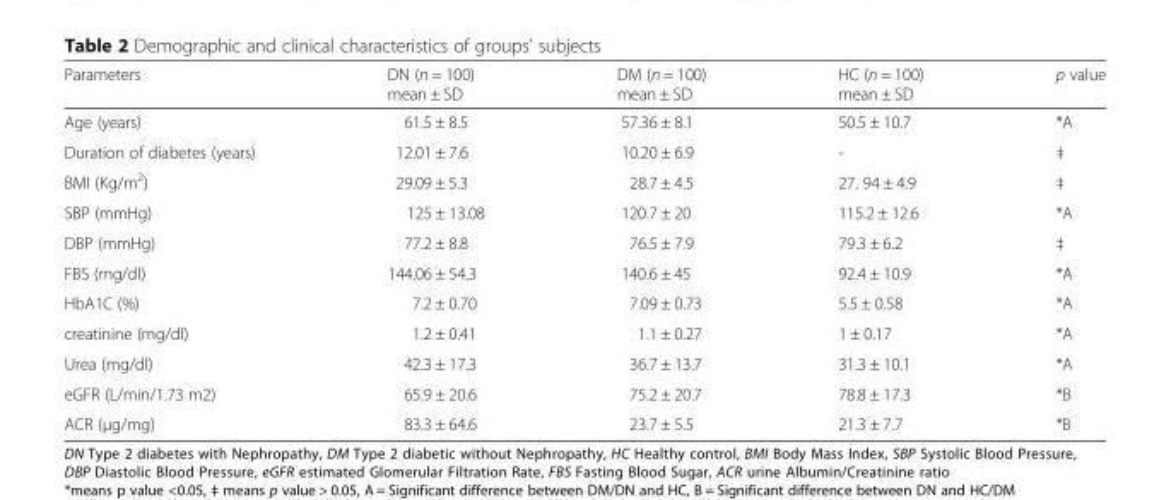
<table><thead><tr><td>Parameters</td><td>DN (n = 100) mean ± SD</td><td>DM (n = 100) mean ± SD</td><td>HC (n = 100) mean ± SD</td><td>p value</td></tr></thead><tbody><tr><td>Age (years)</td><td>61.5 ± 8.5</td><td>57.36 ± 8.1</td><td>50.5 ± 10.7</td><td>*A</td></tr><tr><td>Duration of diabetes (years)</td><td>12.01 ± 7.6</td><td>10.20 ± 6.9</td><td>-</td><td>‡</td></tr><tr><td>BMI (Kg/m<sup>2</sup>)</td><td>29.09 ± 5.3</td><td>28.7 ± 4.5</td><td>27. 94 ± 4.9</td><td>‡</td></tr><tr><td>SBP (mmHg)</td><td>125 ± 13.08</td><td>120.7 ± 20</td><td>115.2 ± 12.6</td><td>*A</td></tr><tr><td>DBP (mmHg)</td><td>77.2 ± 8.8</td><td>76.5 ± 7.9</td><td>79.3 ± 6.2</td><td>‡</td></tr><tr><td>FBS (mg/dl)</td><td>144.06 ± 54.3</td><td>140.6 ± 45</td><td>92.4 ± 10.9</td><td>*A</td></tr><tr><td>HbA1C (%)</td><td>7.2 ± 0.70</td><td>7.09 ± 0.73</td><td>5.5 ± 0.58</td><td>*A</td></tr><tr><td>creatinine (mg/dl)</td><td>1.2 ± 0.41</td><td>1.1 ± 0.27</td><td>1 ± 0.17</td><td>*A</td></tr><tr><td>Urea (mg/dl)</td><td>42.3 ± 17.3</td><td>36.7 ± 13.7</td><td>31.3 ± 10.1</td><td>*A</td></tr><tr><td>eGFR (L/min/1.73 m2)</td><td>65.9 ± 20.6</td><td>75.2 ± 20.7</td><td>78.8 ± 17.3</td><td>*B</td></tr><tr><td>ACR (μg/mg)</td><td>83.3 ± 64.6</td><td>23.7 ± 5.5</td><td>21.3 ± 7.7</td><td>*B</td></tr></tbody></table>